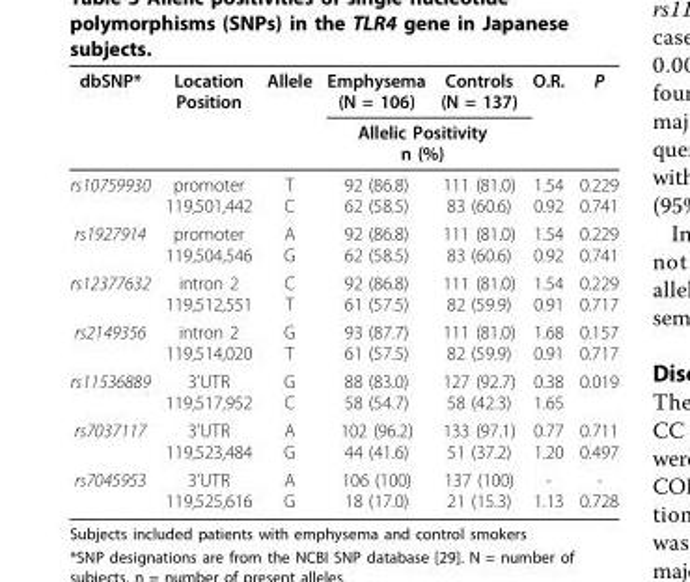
<table><thead><tr><td rowspan="2">dbSNP*</td><td rowspan="2">Location Position</td><td rowspan="2">Allele</td><td>Emphysema (N = 106)</td><td>Controls (N = 137)</td><td rowspan="2">O.R.</td><td rowspan="2">P</td></tr><tr><td colspan="2">Allelic Positivity n (%)</td></tr></thead><tbody><tr><td>rs10759930</td><td>promoter 119,501,442</td><td>T C</td><td>92 (86.8) 62 (58.5)</td><td>111 (81.0) 83 (60.6)</td><td>1.54 0.92</td><td>0.229 0.741</td></tr><tr><td>rs1927914</td><td>promoter 119,504,546</td><td>A G</td><td>92 (86.8) 62 (58.5)</td><td>111 (81.0) 83 (60.6)</td><td>1.54 0.92</td><td>0.229 0.741</td></tr><tr><td>rs12377632</td><td>intron 2 119,512,551</td><td>C T</td><td>92 (86.8) 61 (57.5)</td><td>111 (81.0) 82 (59.9)</td><td>1.54 0.91</td><td>0.229 0.717</td></tr><tr><td>rs2149356</td><td>intron 2 119,514,020</td><td>G T</td><td>93 (87.7) 61 (57.5)</td><td>111 (81.0) 82 (59.9)</td><td>1.68 0.91</td><td>0.157 0.717</td></tr><tr><td>rs11536889</td><td>3’UTR 119,517,952</td><td>G C</td><td>88 (83.0) 58 (54.7)</td><td>127 (92.7) 58 (42.3)</td><td>0.38 1.65</td><td>0.019</td></tr><tr><td>rs7037117</td><td>3’UTR 119,523,484</td><td>A G</td><td>102 (96.2) 44 (41.6)</td><td>133 (97.1) 51 (37.2)</td><td>0.77 1.20</td><td>0.711 0.497</td></tr><tr><td>rs7045953</td><td>3’UTR 119,525,616</td><td>A G</td><td>106 (100) 18 (17.0)</td><td>137 (100) 21 (15.3)</td><td>- 1.13</td><td>- 0.728</td></tr></tbody></table>